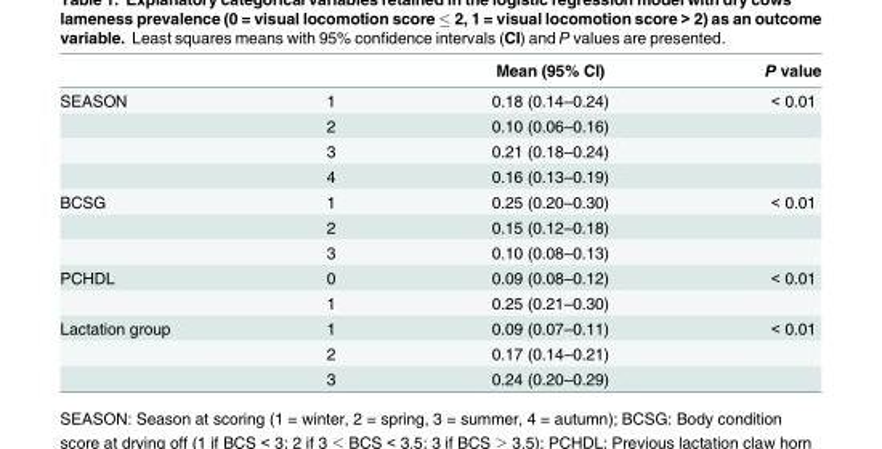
<table><thead><tr><td></td><td></td><td>Mean (95% CI)</td><td>P value</td></tr></thead><tbody><tr><td rowspan="4">SEASON</td><td>1</td><td>0.18 (0.14–0.24)</td><td>&lt; 0.01</td></tr><tr><td>2</td><td>0.10 (0.06–0.16)</td><td></td></tr><tr><td>3</td><td>0.21 (0.18–0.24)</td><td></td></tr><tr><td>4</td><td>0.16 (0.13–0.19)</td><td></td></tr><tr><td rowspan="3">BCSG</td><td>1</td><td>0.25 (0.20–0.30)</td><td>&lt; 0.01</td></tr><tr><td>2</td><td>0.15 (0.12–0.18)</td><td></td></tr><tr><td>3</td><td>0.10 (0.08–0.13)</td><td></td></tr><tr><td rowspan="2">PCHDL</td><td>0</td><td>0.09 (0.08–0.12)</td><td>&lt; 0.01</td></tr><tr><td>1</td><td>0.25 (0.21–0.30)</td><td></td></tr><tr><td rowspan="3">Lactation group</td><td>1</td><td>0.09 (0.07–0.11)</td><td>&lt; 0.01</td></tr><tr><td>2</td><td>0.17 (0.14–0.21)</td><td></td></tr><tr><td>3</td><td>0.24 (0.20–0.29)</td><td></td></tr></tbody></table>